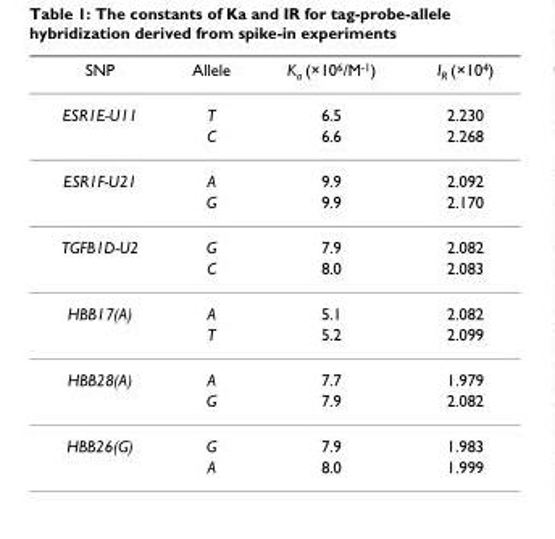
<table><thead><tr><td>SNP</td><td>Allele</td><td>K<sub>a</sub> (×10<sup>6</sup>/M<sup>-1</sup>)</td><td>I<sub>R</sub> (×10<sup>4</sup>)</td></tr></thead><tbody><tr><td rowspan="2">ESR1E-U11</td><td>T</td><td>6.5</td><td>2.230</td></tr><tr><td>C</td><td>6.6</td><td>2.268</td></tr><tr><td rowspan="2">ESR1F-U21</td><td>A</td><td>9.9</td><td>2.092</td></tr><tr><td>G</td><td>9.9</td><td>2.170</td></tr><tr><td rowspan="2">TGFB1D-U2</td><td>G</td><td>7.9</td><td>2.082</td></tr><tr><td>C</td><td>8.0</td><td>2.083</td></tr><tr><td rowspan="2">HBB17(A)</td><td>A</td><td>5.1</td><td>2.082</td></tr><tr><td>T</td><td>5.2</td><td>2.099</td></tr><tr><td rowspan="2">HBB28(A)</td><td>A</td><td>7.7</td><td>1.979</td></tr><tr><td>G</td><td>7.9</td><td>2.082</td></tr><tr><td rowspan="2">HBB26(G)</td><td>G</td><td>7.9</td><td>1.983</td></tr><tr><td>A</td><td>8.0</td><td>1.999</td></tr></tbody></table>